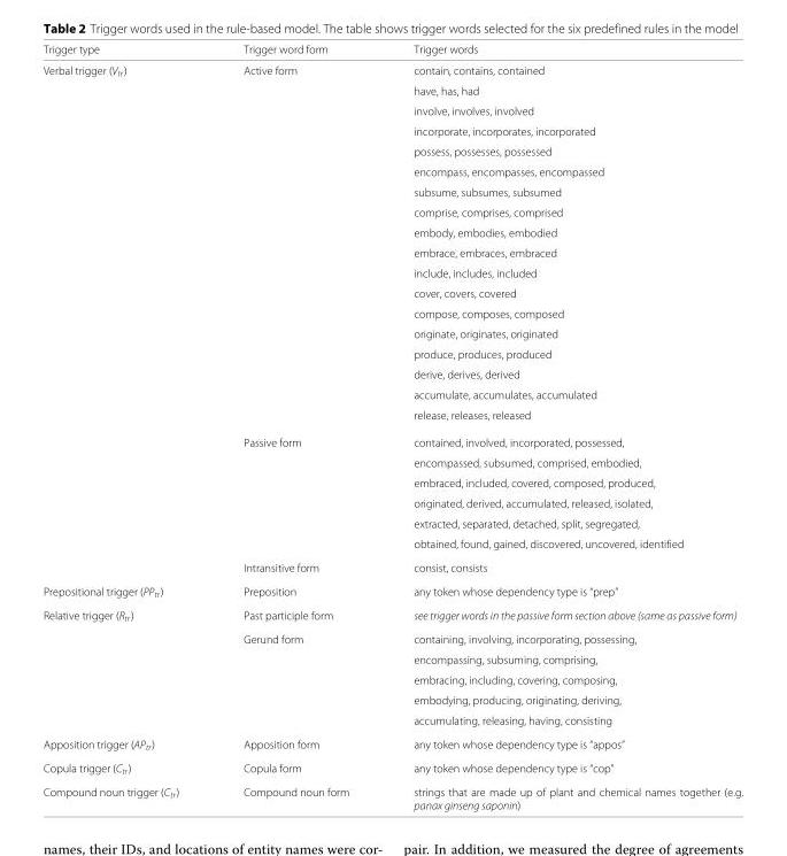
<table><thead><tr><td>Trigger type</td><td>Trigger word form</td><td>Trigger words</td></tr></thead><tbody><tr><td rowspan="25">Verbal trigger (V<sub>tr</sub>)</td><td>Active form</td><td>contain, contains, contained</td></tr><tr><td></td><td>have, has, had</td></tr><tr><td></td><td>involve, involves, involved</td></tr><tr><td></td><td>incorporate, incorporates, incorporated</td></tr><tr><td></td><td>possess, possesses, possessed</td></tr><tr><td></td><td>encompass, encompasses, encompassed</td></tr><tr><td></td><td>subsume, subsumes, subsumed</td></tr><tr><td></td><td>comprise, comprises, comprised</td></tr><tr><td></td><td>embody, embodies, embodied</td></tr><tr><td></td><td>embrace, embraces, embraced</td></tr><tr><td></td><td>include, includes, included</td></tr><tr><td></td><td>cover, covers, covered</td></tr><tr><td></td><td>compose, composes, composed</td></tr><tr><td></td><td>originate, originates, originated</td></tr><tr><td></td><td>produce, produces, produced</td></tr><tr><td></td><td>derive, derives, derived</td></tr><tr><td></td><td>accumulate, accumulates, accumulated</td></tr><tr><td></td><td>release, releases, released</td></tr><tr><td>Passive form</td><td>contained, involved, incorporated, possessed,</td></tr><tr><td></td><td>encompassed, subsumed, comprised, embodied,</td></tr><tr><td></td><td>embraced, included, covered, composed, produced,</td></tr><tr><td></td><td>originated, derived, accumulated, released, isolated,</td></tr><tr><td></td><td>extracted, separated, detached, split, segregated,</td></tr><tr><td></td><td>obtained, found, gained, discovered, uncovered, identified</td></tr><tr><td>Intransitive form</td><td>consist, consists</td></tr><tr><td>Prepositional trigger (PP<sub>tr</sub>)</td><td>Preposition</td><td>any token whose dependency type is “prep”</td></tr><tr><td rowspan="6">Relative trigger (R<sub>tr</sub>)</td><td>Past participle form</td><td>see trigger words in the passive form section above (same as passive form)</td></tr><tr><td>Gerund form</td><td>containing, involving, incorporating, possessing,</td></tr><tr><td></td><td>encompassing, subsuming, comprising,</td></tr><tr><td></td><td>embracing, including, covering, composing,</td></tr><tr><td></td><td>embodying, producing, originating, deriving,</td></tr><tr><td></td><td>accumulating, releasing, having, consisting</td></tr><tr><td>Apposition trigger (AP<sub>tr</sub>)</td><td>Apposition form</td><td>any token whose dependency type is “appos”</td></tr><tr><td>Copula trigger (C<sub>tr</sub>)</td><td>Copula form</td><td>any token whose dependency type is “cop”</td></tr><tr><td>Compound noun trigger (C<sub>tr</sub>)</td><td>Compound noun form</td><td>strings that are made up of plant and chemical names together (e.g. panax ginseng saponin)</td></tr></tbody></table>